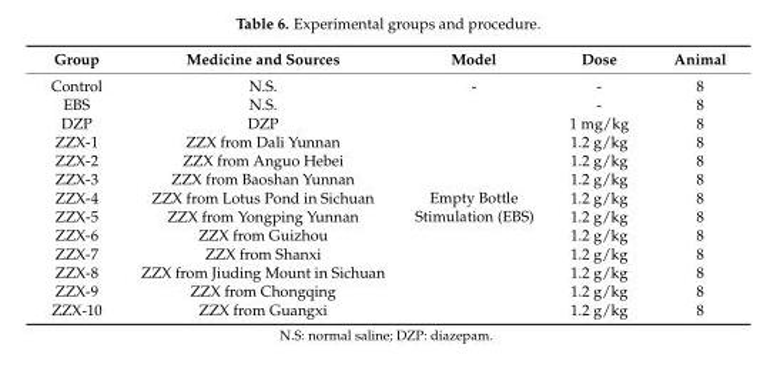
<table><thead><tr><td>Group</td><td>Medicine and Sources</td><td>Model</td><td>Dose</td><td>Animal</td></tr></thead><tbody><tr><td>Control</td><td>N.S.</td><td>-</td><td>-</td><td>8</td></tr><tr><td>EBS</td><td>N.S.</td><td rowspan="12">Empty Bottle Stimulation (EBS)</td><td>-</td><td>8</td></tr><tr><td>DZP</td><td>DZP</td><td>1 mg/kg</td><td>8</td></tr><tr><td>ZZX-1</td><td>ZZX from Dali Yunnan</td><td>1.2 g/kg</td><td>8</td></tr><tr><td>ZZX-2</td><td>ZZX from Anguo Hebei</td><td>1.2 g/kg</td><td>8</td></tr><tr><td>ZZX-3</td><td>ZZX from Baoshan Yunnan</td><td>1.2 g/kg</td><td>8</td></tr><tr><td>ZZX-4</td><td>ZZX from Lotus Pond in Sichuan</td><td>1.2 g/kg</td><td>8</td></tr><tr><td>ZZX-5</td><td>ZZX from Yongping Yunnan</td><td>1.2 g/kg</td><td>8</td></tr><tr><td>ZZX-6</td><td>ZZX from Guizhou</td><td>1.2 g/kg</td><td>8</td></tr><tr><td>ZZX-7</td><td>ZZX from Shanxi</td><td>1.2 g/kg</td><td>8</td></tr><tr><td>ZZX-8</td><td>ZZX from Jiuding Mount in Sichuan</td><td>1.2 g/kg</td><td>8</td></tr><tr><td>ZZX-9</td><td>ZZX from Chongqing</td><td>1.2 g/kg</td><td>8</td></tr><tr><td>ZZX-10</td><td>ZZX from Guangxi</td><td>1.2 g/kg</td><td>8</td></tr></tbody></table>